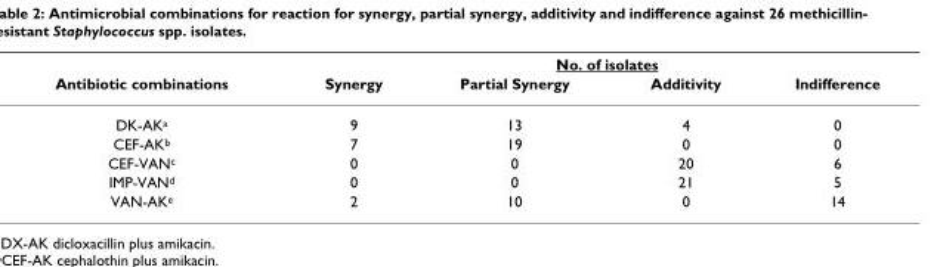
<table><thead><tr><td rowspan="2">Antibiotic combinations</td><td colspan="4">No. of isolates</td></tr><tr><td>Synergy</td><td>Partial Synergy</td><td>Additivity</td><td>Indifference</td></tr></thead><tbody><tr><td>DK-AK<sup>a</sup></td><td>9</td><td>13</td><td>4</td><td>0</td></tr><tr><td>CEF-AK<sup>b</sup></td><td>7</td><td>19</td><td>0</td><td>0</td></tr><tr><td>CEF-VAN<sup>c</sup></td><td>0</td><td>0</td><td>20</td><td>6</td></tr><tr><td>IMP-VAN<sup>d</sup></td><td>0</td><td>0</td><td>21</td><td>5</td></tr><tr><td>VAN-AK<sup>e</sup></td><td>2</td><td>10</td><td>0</td><td>14</td></tr></tbody></table>